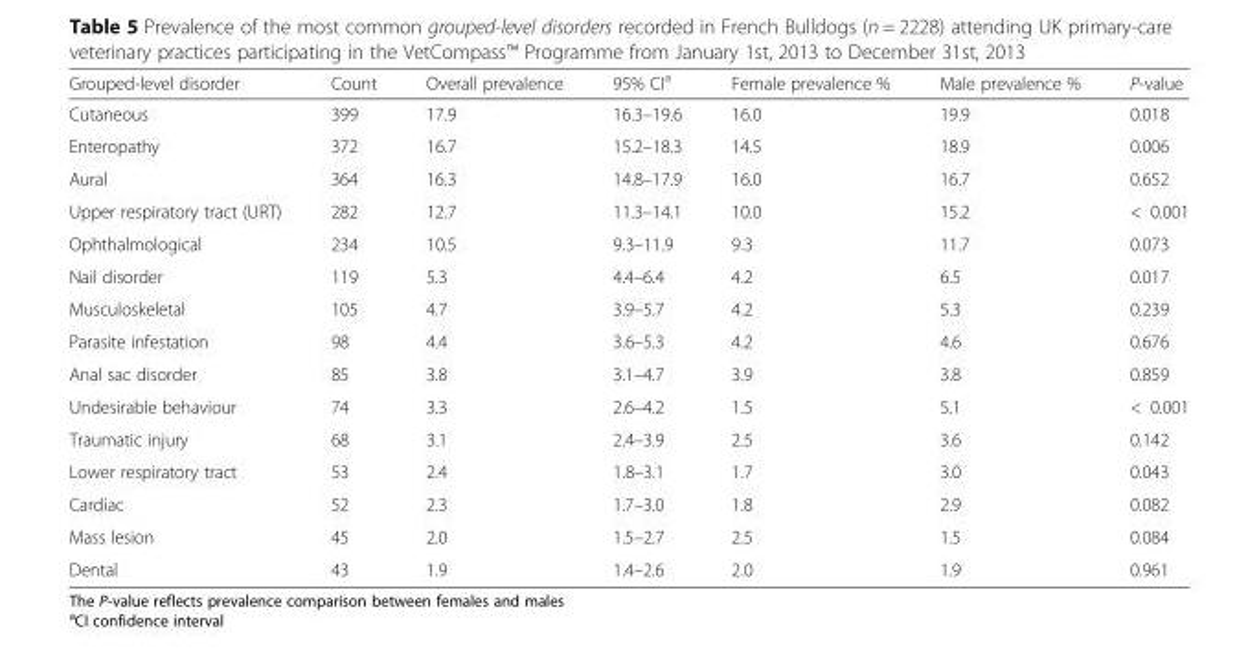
<table><thead><tr><td>Grouped-level disorder</td><td>Count</td><td>Overall prevalence</td><td>95% CI<sup>a</sup></td><td>Female prevalence %</td><td>Male prevalence %</td><td>P-value</td></tr></thead><tbody><tr><td>Cutaneous</td><td>399</td><td>17.9</td><td>16.3–19.6</td><td>16.0</td><td>19.9</td><td>0.018</td></tr><tr><td>Enteropathy</td><td>372</td><td>16.7</td><td>15.2–18.3</td><td>14.5</td><td>18.9</td><td>0.006</td></tr><tr><td>Aural</td><td>364</td><td>16.3</td><td>14.8–17.9</td><td>16.0</td><td>16.7</td><td>0.652</td></tr><tr><td>Upper respiratory tract (URT)</td><td>282</td><td>12.7</td><td>11.3–14.1</td><td>10.0</td><td>15.2</td><td>&lt; 0.001</td></tr><tr><td>Ophthalmological</td><td>234</td><td>10.5</td><td>9.3–11.9</td><td>9.3</td><td>11.7</td><td>0.073</td></tr><tr><td>Nail disorder</td><td>119</td><td>5.3</td><td>4.4–6.4</td><td>4.2</td><td>6.5</td><td>0.017</td></tr><tr><td>Musculoskeletal</td><td>105</td><td>4.7</td><td>3.9–5.7</td><td>4.2</td><td>5.3</td><td>0.239</td></tr><tr><td>Parasite infestation</td><td>98</td><td>4.4</td><td>3.6–5.3</td><td>4.2</td><td>4.6</td><td>0.676</td></tr><tr><td>Anal sac disorder</td><td>85</td><td>3.8</td><td>3.1–4.7</td><td>3.9</td><td>3.8</td><td>0.859</td></tr><tr><td>Undesirable behaviour</td><td>74</td><td>3.3</td><td>2.6–4.2</td><td>1.5</td><td>5.1</td><td>&lt; 0.001</td></tr><tr><td>Traumatic injury</td><td>68</td><td>3.1</td><td>2.4–3.9</td><td>2.5</td><td>3.6</td><td>0.142</td></tr><tr><td>Lower respiratory tract</td><td>53</td><td>2.4</td><td>1.8–3.1</td><td>1.7</td><td>3.0</td><td>0.043</td></tr><tr><td>Cardiac</td><td>52</td><td>2.3</td><td>1.7–3.0</td><td>1.8</td><td>2.9</td><td>0.082</td></tr><tr><td>Mass lesion</td><td>45</td><td>2.0</td><td>1.5–2.7</td><td>2.5</td><td>1.5</td><td>0.084</td></tr><tr><td>Dental</td><td>43</td><td>1.9</td><td>1.4–2.6</td><td>2.0</td><td>1.9</td><td>0.961</td></tr></tbody></table>